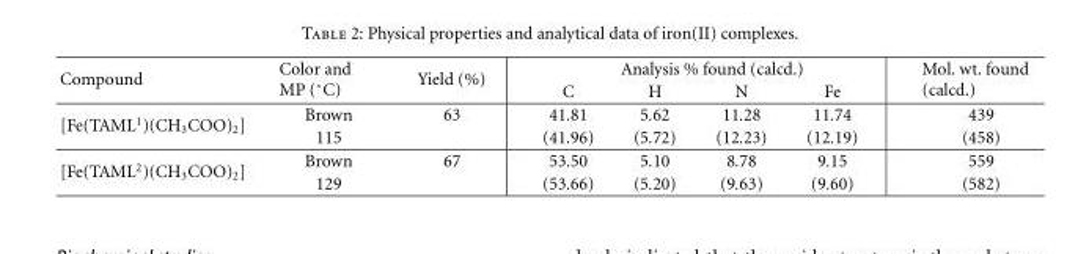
<table><tbody><tr><td rowspan="2">Compound</td><td rowspan="2">Color and MP (◦C)</td><td rowspan="2">Yield (%)</td><td colspan="4">Analysis % found (calcd.)</td><td rowspan="2">Mol. wt. found (calcd.)</td></tr><tr><td>C</td><td>H</td><td>N</td><td>Fe</td></tr><tr><td rowspan="2">[Fe(TAML<sup>1</sup>)(CH<sub>3</sub>COO)<sub>2</sub>]</td><td>Brown</td><td>63</td><td>41.81</td><td>5.62</td><td>11.28</td><td>11.74</td><td>439</td></tr><tr><td>115</td><td></td><td>(41.96)</td><td>(5.72)</td><td>(12.23)</td><td>(12.19)</td><td>(458)</td></tr><tr><td rowspan="2">[Fe(TAML<sup>2</sup>)(CH<sub>3</sub>COO)<sub>2</sub>]</td><td>Brown</td><td>67</td><td>53.50</td><td>5.10</td><td>8.78</td><td>9.15</td><td>559</td></tr><tr><td>129</td><td></td><td>(53.66)</td><td>(5.20)</td><td>(9.63)</td><td>(9.60)</td><td>(582)</td></tr></tbody></table>